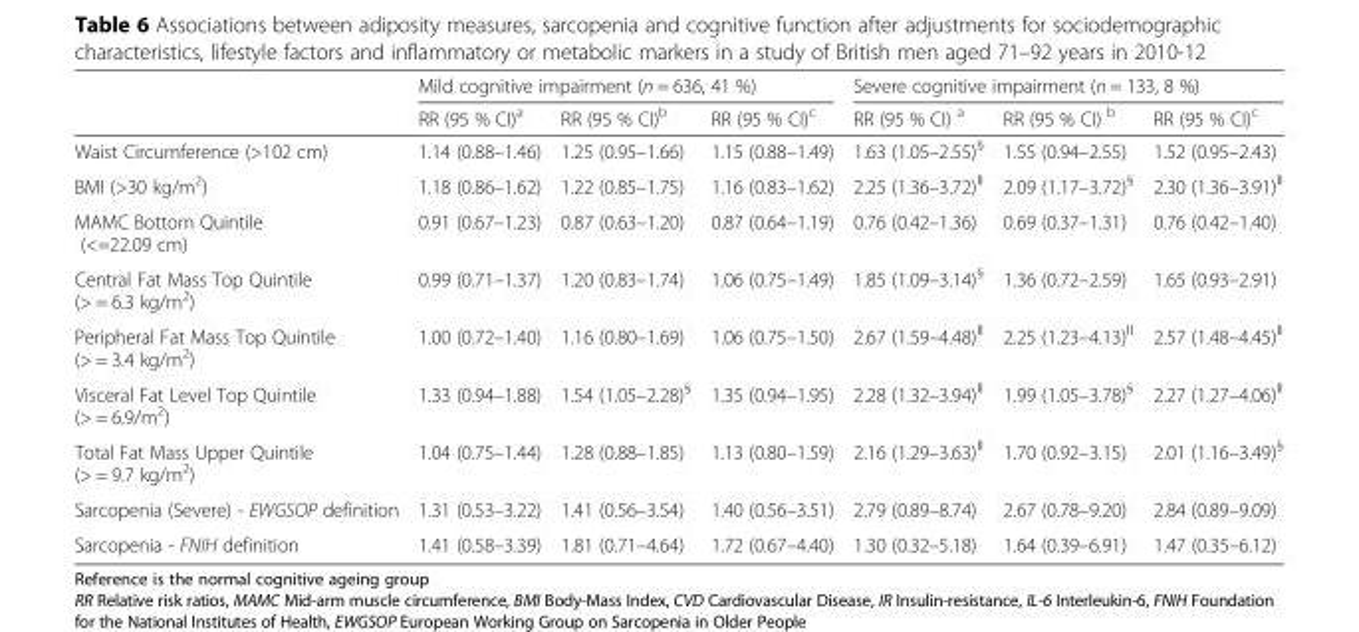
<table><thead><tr><td rowspan="2"></td><td colspan="3">Mild cognitive impairment (n = 636, 41 %)</td><td colspan="3">Severe cognitive impairment (n = 133, 8 %)</td></tr><tr><td>RR (95 % CI)<sup>a</sup></td><td>RR (95 % CI)<sup>b</sup></td><td>RR (95 % CI)<sup>c</sup></td><td>RR (95 % CI) <sup>a</sup></td><td>RR (95 % CI) <sup>b</sup></td><td>RR (95 % CI)<sup>c</sup></td></tr></thead><tbody><tr><td>Waist Circumference (&gt;102 cm)</td><td>1.14 (0.88–1.46)</td><td>1.25 (0.95–1.66)</td><td>1.15 (0.88–1.49)</td><td>1.63 (1.05–2.55)<sup>§</sup></td><td>1.55 (0.94–2.55)</td><td>1.52 (0.95–2.43)</td></tr><tr><td>BMI (&gt;30 kg/m<sup>2</sup>)</td><td>1.18 (0.86–1.62)</td><td>1.22 (0.85–1.75)</td><td>1.16 (0.83–1.62)</td><td>2.25 (1.36–3.72)<sup>ǁ</sup></td><td>2.09 (1.17–3.72)<sup>§</sup></td><td>2.30 (1.36–3.91)<sup>ǁ</sup></td></tr><tr><td>MAMC Bottom Quintile (&lt;=22.09 cm)</td><td>0.91 (0.67–1.23)</td><td>0.87 (0.63–1.20)</td><td>0.87 (0.64–1.19)</td><td>0.76 (0.42–1.36)</td><td>0.69 (0.37–1.31)</td><td>0.76 (0.42–1.40)</td></tr><tr><td>Central Fat Mass Top Quintile (&gt; = 6.3 kg/m<sup>2</sup>)</td><td>0.99 (0.71–1.37)</td><td>1.20 (0.83–1.74)</td><td>1.06 (0.75–1.49)</td><td>1.85 (1.09–3.14)<sup>§</sup></td><td>1.36 (0.72–2.59)</td><td>1.65 (0.93–2.91)</td></tr><tr><td>Peripheral Fat Mass Top Quintile (&gt; = 3.4 kg/m<sup>2</sup>)</td><td>1.00 (0.72–1.40)</td><td>1.16 (0.80–1.69)</td><td>1.06 (0.75–1.50)</td><td>2.67 (1.59–4.48)<sup>ǁ</sup></td><td>2.25 (1.23–4.13)<sup>ǁ</sup></td><td>2.57 (1.48–4.45)<sup>ǁ</sup></td></tr><tr><td>Visceral Fat Level Top Quintile (&gt; = 6.9/m<sup>2</sup>)</td><td>1.33 (0.94–1.88)</td><td>1.54 (1.05–2.28)<sup>§</sup></td><td>1.35 (0.94–1.95)</td><td>2.28 (1.32–3.94)<sup>ǁ</sup></td><td>1.99 (1.05–3.78)<sup>§</sup></td><td>2.27 (1.27–4.06)<sup>ǁ</sup></td></tr><tr><td>Total Fat Mass Upper Quintile (&gt; = 9.7 kg/m<sup>2</sup>)</td><td>1.04 (0.75–1.44)</td><td>1.28 (0.88–1.85)</td><td>1.13 (0.80–1.59)</td><td>2.16 (1.29–3.63)<sup>ǁ</sup></td><td>1.70 (0.92–3.15)</td><td>2.01 (1.16–3.49)<sup>§</sup></td></tr><tr><td>Sarcopenia (Severe) - EWGSOP definition</td><td>1.31 (0.53–3.22)</td><td>1.41 (0.56–3.54)</td><td>1.40 (0.56–3.51)</td><td>2.79 (0.89–8.74)</td><td>2.67 (0.78–9.20)</td><td>2.84 (0.89–9.09)</td></tr><tr><td>Sarcopenia - FNIH definition</td><td>1.41 (0.58–3.39)</td><td>1.81 (0.71–4.64)</td><td>1.72 (0.67–4.40)</td><td>1.30 (0.32–5.18)</td><td>1.64 (0.39–6.91)</td><td>1.47 (0.35–6.12)</td></tr></tbody></table>